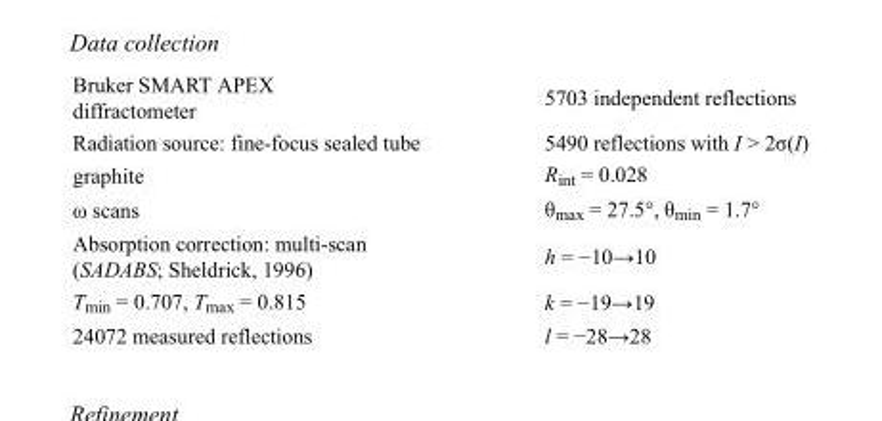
<table><tbody><tr><td>Bruker SMART APEX diffractometer</td><td>5703 independent reflections</td></tr><tr><td>Radiation source: fine-focus sealed tube</td><td>5490 reflections with I &gt; 2σ(I)</td></tr><tr><td>graphite</td><td>R<sub>int</sub> = 0.028</td></tr><tr><td>ω scans</td><td>θ<sub>max</sub> = 27.5°, θ<sub>min</sub> = 1.7°</td></tr><tr><td>Absorption correction: multi-scan (SADABS; Sheldrick, 1996)</td><td>h = −10→10</td></tr><tr><td>T<sub>min</sub> = 0.707, T<sub>max</sub> = 0.815</td><td>k = −19→19</td></tr><tr><td>24072 measured reflections</td><td>l = −28→28</td></tr></tbody></table>